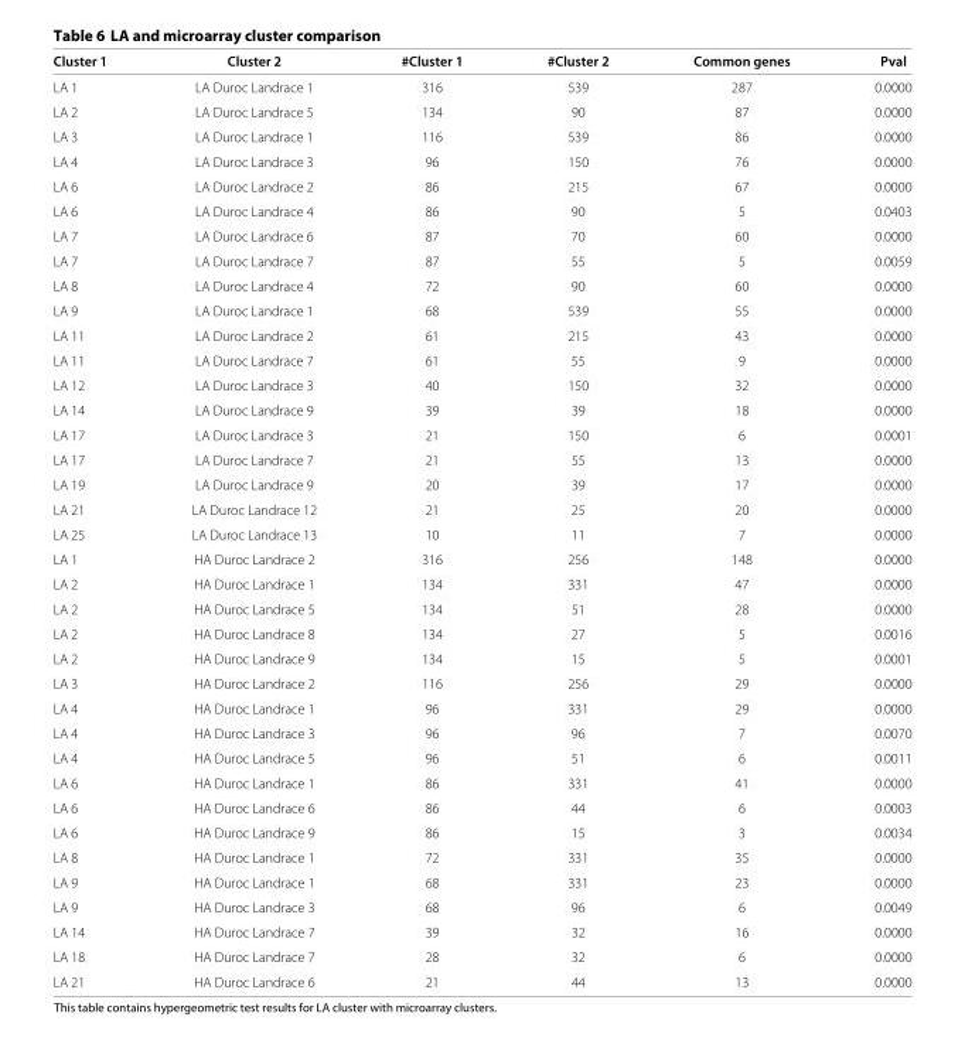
<table><thead><tr><td>Cluster 1</td><td>Cluster 2</td><td>#Cluster 1</td><td>#Cluster 2</td><td>Common genes</td><td>Pval</td></tr></thead><tbody><tr><td>LA 1</td><td>LA Duroc Landrace 1</td><td>316</td><td>539</td><td>287</td><td>0.0000</td></tr><tr><td>LA 2</td><td>LA Duroc Landrace 5</td><td>134</td><td>90</td><td>87</td><td>0.0000</td></tr><tr><td>LA 3</td><td>LA Duroc Landrace 1</td><td>116</td><td>539</td><td>86</td><td>0.0000</td></tr><tr><td>LA 4</td><td>LA Duroc Landrace 3</td><td>96</td><td>150</td><td>76</td><td>0.0000</td></tr><tr><td>LA 6</td><td>LA Duroc Landrace 2</td><td>86</td><td>215</td><td>67</td><td>0.0000</td></tr><tr><td>LA 6</td><td>LA Duroc Landrace 4</td><td>86</td><td>90</td><td>5</td><td>0.0403</td></tr><tr><td>LA 7</td><td>LA Duroc Landrace 6</td><td>87</td><td>70</td><td>60</td><td>0.0000</td></tr><tr><td>LA 7</td><td>LA Duroc Landrace 7</td><td>87</td><td>55</td><td>5</td><td>0.0059</td></tr><tr><td>LA 8</td><td>LA Duroc Landrace 4</td><td>72</td><td>90</td><td>60</td><td>0.0000</td></tr><tr><td>LA 9</td><td>LA Duroc Landrace 1</td><td>68</td><td>539</td><td>55</td><td>0.0000</td></tr><tr><td>LA 11</td><td>LA Duroc Landrace 2</td><td>61</td><td>215</td><td>43</td><td>0.0000</td></tr><tr><td>LA 11</td><td>LA Duroc Landrace 7</td><td>61</td><td>55</td><td>9</td><td>0.0000</td></tr><tr><td>LA 12</td><td>LA Duroc Landrace 3</td><td>40</td><td>150</td><td>32</td><td>0.0000</td></tr><tr><td>LA 14</td><td>LA Duroc Landrace 9</td><td>39</td><td>39</td><td>18</td><td>0.0000</td></tr><tr><td>LA 17</td><td>LA Duroc Landrace 3</td><td>21</td><td>150</td><td>6</td><td>0.0001</td></tr><tr><td>LA 17</td><td>LA Duroc Landrace 7</td><td>21</td><td>55</td><td>13</td><td>0.0000</td></tr><tr><td>LA 19</td><td>LA Duroc Landrace 9</td><td>20</td><td>39</td><td>17</td><td>0.0000</td></tr><tr><td>LA 21</td><td>LA Duroc Landrace 12</td><td>21</td><td>25</td><td>20</td><td>0.0000</td></tr><tr><td>LA 25</td><td>LA Duroc Landrace 13</td><td>10</td><td>11</td><td>7</td><td>0.0000</td></tr><tr><td>LA 1</td><td>HA Duroc Landrace 2</td><td>316</td><td>256</td><td>148</td><td>0.0000</td></tr><tr><td>LA 2</td><td>HA Duroc Landrace 1</td><td>134</td><td>331</td><td>47</td><td>0.0000</td></tr><tr><td>LA 2</td><td>HA Duroc Landrace 5</td><td>134</td><td>51</td><td>28</td><td>0.0000</td></tr><tr><td>LA 2</td><td>HA Duroc Landrace 8</td><td>134</td><td>27</td><td>5</td><td>0.0016</td></tr><tr><td>LA 2</td><td>HA Duroc Landrace 9</td><td>134</td><td>15</td><td>5</td><td>0.0001</td></tr><tr><td>LA 3</td><td>HA Duroc Landrace 2</td><td>116</td><td>256</td><td>29</td><td>0.0000</td></tr><tr><td>LA 4</td><td>HA Duroc Landrace 1</td><td>96</td><td>331</td><td>29</td><td>0.0000</td></tr><tr><td>LA 4</td><td>HA Duroc Landrace 3</td><td>96</td><td>96</td><td>7</td><td>0.0070</td></tr><tr><td>LA 4</td><td>HA Duroc Landrace 5</td><td>96</td><td>51</td><td>6</td><td>0.0011</td></tr><tr><td>LA 6</td><td>HA Duroc Landrace 1</td><td>86</td><td>331</td><td>41</td><td>0.0000</td></tr><tr><td>LA 6</td><td>HA Duroc Landrace 6</td><td>86</td><td>44</td><td>6</td><td>0.0003</td></tr><tr><td>LA 6</td><td>HA Duroc Landrace 9</td><td>86</td><td>15</td><td>3</td><td>0.0034</td></tr><tr><td>LA 8</td><td>HA Duroc Landrace 1</td><td>72</td><td>331</td><td>35</td><td>0.0000</td></tr><tr><td>LA 9</td><td>HA Duroc Landrace 1</td><td>68</td><td>331</td><td>23</td><td>0.0000</td></tr><tr><td>LA 9</td><td>HA Duroc Landrace 3</td><td>68</td><td>96</td><td>6</td><td>0.0049</td></tr><tr><td>LA 14</td><td>HA Duroc Landrace 7</td><td>39</td><td>32</td><td>16</td><td>0.0000</td></tr><tr><td>LA 18</td><td>HA Duroc Landrace 7</td><td>28</td><td>32</td><td>6</td><td>0.0000</td></tr><tr><td>LA 21</td><td>HA Duroc Landrace 6</td><td>21</td><td>44</td><td>13</td><td>0.0000</td></tr></tbody></table>